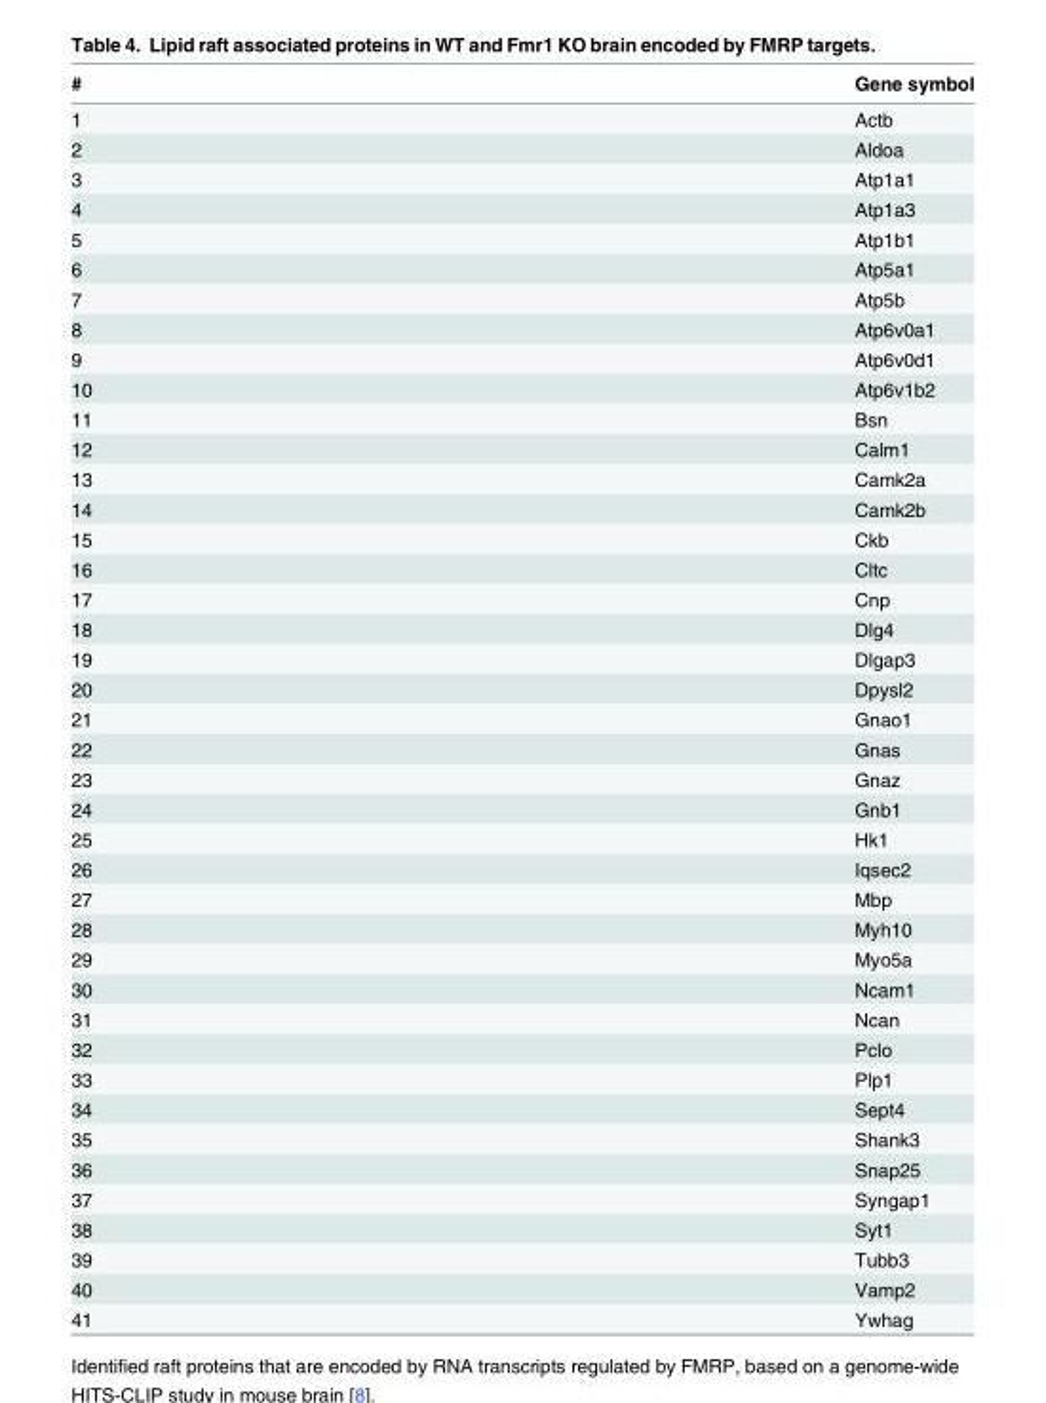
<table><thead><tr><td>#</td><td>Gene symbol</td></tr></thead><tbody><tr><td>1</td><td>Actb</td></tr><tr><td>2</td><td>Aldoa</td></tr><tr><td>3</td><td>Atp1a1</td></tr><tr><td>4</td><td>Atp1a3</td></tr><tr><td>5</td><td>Atp1b1</td></tr><tr><td>6</td><td>Atp5a1</td></tr><tr><td>7</td><td>Atp5b</td></tr><tr><td>8</td><td>Atp6v0a1</td></tr><tr><td>9</td><td>Atp6v0d1</td></tr><tr><td>10</td><td>Atp6v1b2</td></tr><tr><td>11</td><td>Bsn</td></tr><tr><td>12</td><td>Calm1</td></tr><tr><td>13</td><td>Camk2a</td></tr><tr><td>14</td><td>Camk2b</td></tr><tr><td>15</td><td>Ckb</td></tr><tr><td>16</td><td>Cltc</td></tr><tr><td>17</td><td>Cnp</td></tr><tr><td>18</td><td>Dlg4</td></tr><tr><td>19</td><td>Dlgap3</td></tr><tr><td>20</td><td>Dpysl2</td></tr><tr><td>21</td><td>Gnao1</td></tr><tr><td>22</td><td>Gnas</td></tr><tr><td>23</td><td>Gnaz</td></tr><tr><td>24</td><td>Gnb1</td></tr><tr><td>25</td><td>Hk1</td></tr><tr><td>26</td><td>Iqsec2</td></tr><tr><td>27</td><td>Mbp</td></tr><tr><td>28</td><td>Myh10</td></tr><tr><td>29</td><td>Myo5a</td></tr><tr><td>30</td><td>Ncam1</td></tr><tr><td>31</td><td>Ncan</td></tr><tr><td>32</td><td>Pclo</td></tr><tr><td>33</td><td>Plp1</td></tr><tr><td>34</td><td>Sept4</td></tr><tr><td>35</td><td>Shank3</td></tr><tr><td>36</td><td>Snap25</td></tr><tr><td>37</td><td>Syngap1</td></tr><tr><td>38</td><td>Syt1</td></tr><tr><td>39</td><td>Tubb3</td></tr><tr><td>40</td><td>Vamp2</td></tr><tr><td>41</td><td>Ywhag</td></tr></tbody></table>